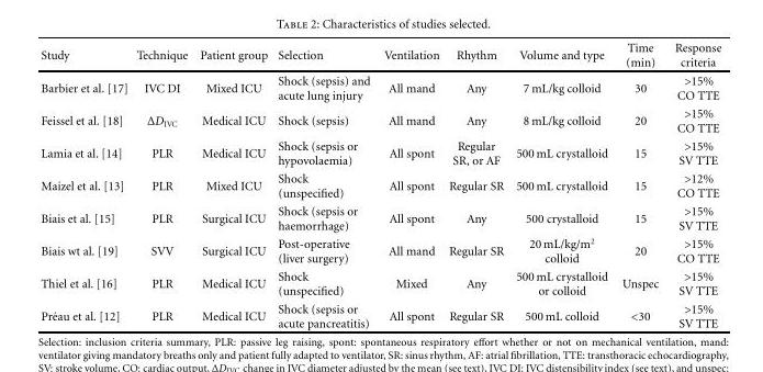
<table><thead><tr><td>Study</td><td>Technique</td><td>Patient group</td><td>Selection</td><td>Ventilation</td><td>Rhythm</td><td>Volume and type</td><td>Time (min)</td><td>Response criteria</td></tr></thead><tbody><tr><td>Barbier et al. [17]</td><td>IVC DI</td><td>Mixed ICU</td><td>Shock (sepsis) and acute lung injury</td><td>All mand</td><td>Any</td><td>7 mL/kg colloid</td><td>30</td><td>&gt;15% CO TTE</td></tr><tr><td>Feissel et al. [18]</td><td>ΔD<sub>IVC</sub></td><td>Medical ICU</td><td>Shock (sepsis)</td><td>All mand</td><td>Any</td><td>8 mL/kg colloid</td><td>20</td><td>&gt;15% CO TTE</td></tr><tr><td>Lamia et al. [14]</td><td>PLR</td><td>Medical ICU</td><td>Shock (sepsis or hypovolaemia)</td><td>All spont</td><td>Regular SR, or AF</td><td>500 mL crystalloid</td><td>15</td><td>&gt;15% SV TTE</td></tr><tr><td>Maizel et al. [13]</td><td>PLR</td><td>Mixed ICU</td><td>Shock (unspecified)</td><td>All spont</td><td>Regular SR</td><td>500 mL crystalloid</td><td>15</td><td>&gt;12% CO TTE</td></tr><tr><td>Biais et al. [15]</td><td>PLR</td><td>Surgical ICU</td><td>Shock (sepsis or haemorrhage)</td><td>All spont</td><td>Any</td><td>500 crystalloid</td><td>15</td><td>&gt;15% SV TTE</td></tr><tr><td>Biais wt al. [19]</td><td>SVV</td><td>Surgical ICU</td><td>Post-operative (liver surgery)</td><td>All mand</td><td>Regular SR</td><td>20 mL/kg/m<sup>2</sup> colloid</td><td>20</td><td>&gt;15% CO TTE</td></tr><tr><td>Thiel et al. [16]</td><td>PLR</td><td>Medical ICU</td><td>Shock (unspecified)</td><td>Mixed</td><td>Any</td><td>500 mL crystalloid or colloid</td><td>Unspec</td><td>&gt;15% SV TTE</td></tr><tr><td>Pr´eau et al. [12]</td><td>PLR</td><td>Medical ICU</td><td>Shock (sepsis or acute pancreatitis)</td><td>All spont</td><td>Regular SR</td><td>500 mL colloid</td><td>&lt;30</td><td>&gt;15% SV TTE</td></tr></tbody></table>